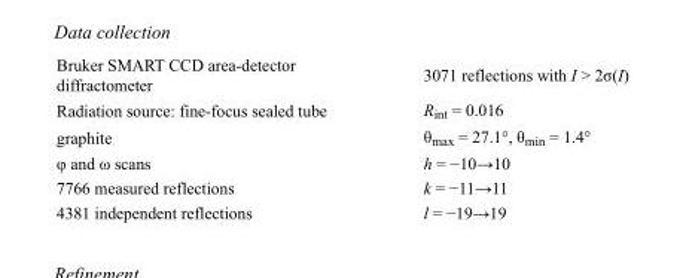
<table><tbody><tr><td>Bruker SMART CCD area-detector diffractometer</td><td>3071 reflections with I &gt; 2σ(I)</td></tr><tr><td>Radiation source: fine-focus sealed tube</td><td>R<sub>int</sub> = 0.016</td></tr><tr><td>graphite</td><td>θ<sub>max</sub> = 27.1°, θ<sub>min</sub> = 1.4°</td></tr><tr><td>φ and ω scans</td><td>h = −10→10</td></tr><tr><td>7766 measured reflections</td><td>k = −11→11</td></tr><tr><td>4381 independent reflections</td><td>l = −19→19</td></tr></tbody></table>